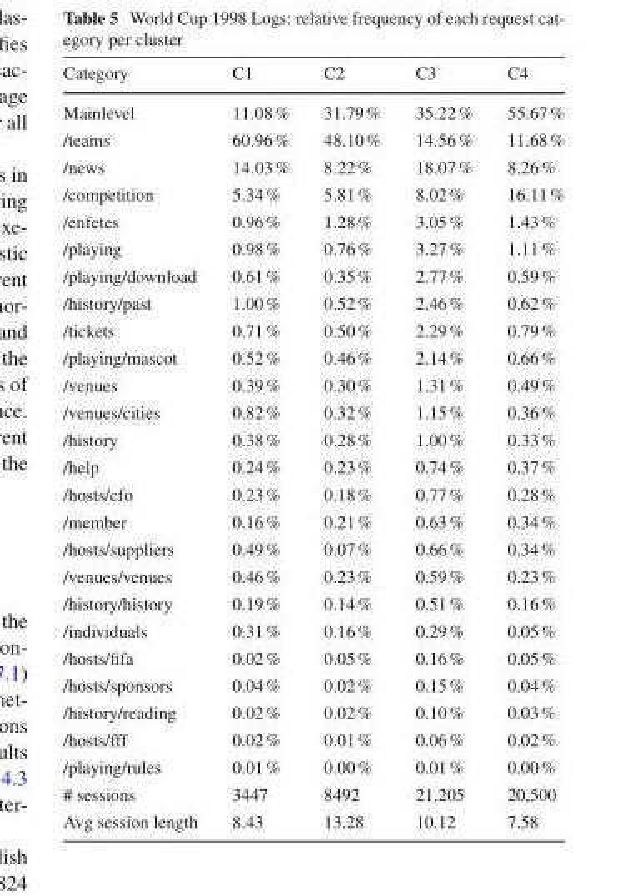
<table><thead><tr><td>Category</td><td>C1</td><td>C2</td><td>C3</td><td>C4</td></tr></thead><tbody><tr><td>Mainlevel</td><td>11.08%</td><td>31.79%</td><td>35.22%</td><td>55.67%</td></tr><tr><td>/teams</td><td>60.96%</td><td>48.10%</td><td>14.56%</td><td>11.68%</td></tr><tr><td>/news</td><td>14.03%</td><td>8.22%</td><td>18.07%</td><td>8.26%</td></tr><tr><td>/competition</td><td>5.34%</td><td>5.81%</td><td>8.02%</td><td>16.11%</td></tr><tr><td>/enfetes</td><td>0.96%</td><td>1.28%</td><td>3.05%</td><td>1.43%</td></tr><tr><td>/playing</td><td>0.98%</td><td>0.76%</td><td>3.27%</td><td>1.11%</td></tr><tr><td>/playing/download</td><td>0.61%</td><td>0.35%</td><td>2.77%</td><td>0.59%</td></tr><tr><td>/history/past</td><td>1.00%</td><td>0.52%</td><td>2.46%</td><td>0.62%</td></tr><tr><td>/tickets</td><td>0.71%</td><td>0.50%</td><td>2.29%</td><td>0.79%</td></tr><tr><td>/playing/mascot</td><td>0.52%</td><td>0.46%</td><td>2.14%</td><td>0.66%</td></tr><tr><td>/venues</td><td>0.39%</td><td>0.30%</td><td>1.31%</td><td>0.49%</td></tr><tr><td>/venues/cities</td><td>0.82%</td><td>0.32%</td><td>1.15%</td><td>0.36%</td></tr><tr><td>/history</td><td>0.38%</td><td>0.28%</td><td>1.00%</td><td>0.33%</td></tr><tr><td>/help</td><td>0.24%</td><td>0.23%</td><td>0.74%</td><td>0.37%</td></tr><tr><td>/hosts/cfo</td><td>0.23%</td><td>0.18%</td><td>0.77%</td><td>0.28%</td></tr><tr><td>/member</td><td>0.16%</td><td>0.21%</td><td>0.63%</td><td>0.34%</td></tr><tr><td>/hosts/suppliers</td><td>0.49%</td><td>0.07%</td><td>0.66%</td><td>0.34%</td></tr><tr><td>/venues/venues</td><td>0.46%</td><td>0.23%</td><td>0.59%</td><td>0.23%</td></tr><tr><td>/history/history</td><td>0.19%</td><td>0.14%</td><td>0.51%</td><td>0.16%</td></tr><tr><td>/individuals</td><td>0.31%</td><td>0.16%</td><td>0.29%</td><td>0.05%</td></tr><tr><td>/hosts/fifa</td><td>0.02%</td><td>0.05%</td><td>0.16%</td><td>0.05%</td></tr><tr><td>/hosts/sponsors</td><td>0.04%</td><td>0.02%</td><td>0.15%</td><td>0.04%</td></tr><tr><td>/history/reading</td><td>0.02%</td><td>0.02%</td><td>0.10%</td><td>0.03%</td></tr><tr><td>/hosts/fff</td><td>0.02%</td><td>0.01%</td><td>0.06%</td><td>0.02%</td></tr><tr><td>/playing/rules</td><td>0.01%</td><td>0.00%</td><td>0.01%</td><td>0.00%</td></tr><tr><td># sessions</td><td>3447</td><td>8492</td><td>21,205</td><td>20,500</td></tr><tr><td>Avg session length</td><td>8.43</td><td>13.28</td><td>10.12</td><td>7.58</td></tr></tbody></table>